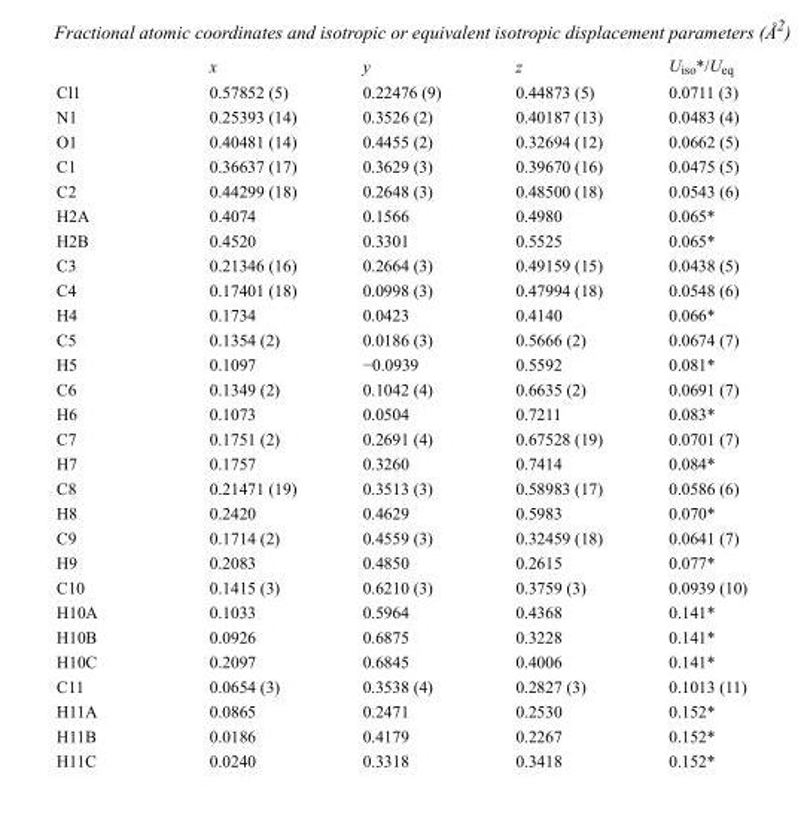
<table><thead><tr><td></td><td>x</td><td>y</td><td>z</td><td>U<sub>iso</sub>*/U<sub>eq</sub></td></tr></thead><tbody><tr><td>Cl1</td><td>0.57852 (5)</td><td>0.22476 (9)</td><td>0.44873 (5)</td><td>0.0711 (3)</td></tr><tr><td>N1</td><td>0.25393 (14)</td><td>0.3526 (2)</td><td>0.40187 (13)</td><td>0.0483 (4)</td></tr><tr><td>O1</td><td>0.40481 (14)</td><td>0.4455 (2)</td><td>0.32694 (12)</td><td>0.0662 (5)</td></tr><tr><td>C1</td><td>0.36637 (17)</td><td>0.3629 (3)</td><td>0.39670 (16)</td><td>0.0475 (5)</td></tr><tr><td>C2</td><td>0.44299 (18)</td><td>0.2648 (3)</td><td>0.48500 (18)</td><td>0.0543 (6)</td></tr><tr><td>H2A</td><td>0.4074</td><td>0.1566</td><td>0.4980</td><td>0.065*</td></tr><tr><td>H2B</td><td>0.4520</td><td>0.3301</td><td>0.5525</td><td>0.065*</td></tr><tr><td>C3</td><td>0.21346 (16)</td><td>0.2664 (3)</td><td>0.49159 (15)</td><td>0.0438 (5)</td></tr><tr><td>C4</td><td>0.17401 (18)</td><td>0.0998 (3)</td><td>0.47994 (18)</td><td>0.0548 (6)</td></tr><tr><td>H4</td><td>0.1734</td><td>0.0423</td><td>0.4140</td><td>0.066*</td></tr><tr><td>C5</td><td>0.1354 (2)</td><td>0.0186 (3)</td><td>0.5666 (2)</td><td>0.0674 (7)</td></tr><tr><td>H5</td><td>0.1097</td><td>−0.0939</td><td>0.5592</td><td>0.081*</td></tr><tr><td>C6</td><td>0.1349 (2)</td><td>0.1042 (4)</td><td>0.6635 (2)</td><td>0.0691 (7)</td></tr><tr><td>H6</td><td>0.1073</td><td>0.0504</td><td>0.7211</td><td>0.083*</td></tr><tr><td>C7</td><td>0.1751 (2)</td><td>0.2691 (4)</td><td>0.67528 (19)</td><td>0.0701 (7)</td></tr><tr><td>H7</td><td>0.1757</td><td>0.3260</td><td>0.7414</td><td>0.084*</td></tr><tr><td>C8</td><td>0.21471 (19)</td><td>0.3513 (3)</td><td>0.58983 (17)</td><td>0.0586 (6)</td></tr><tr><td>H8</td><td>0.2420</td><td>0.4629</td><td>0.5983</td><td>0.070*</td></tr><tr><td>C9</td><td>0.1714 (2)</td><td>0.4559 (3)</td><td>0.32459 (18)</td><td>0.0641 (7)</td></tr><tr><td>H9</td><td>0.2083</td><td>0.4850</td><td>0.2615</td><td>0.077*</td></tr><tr><td>C10</td><td>0.1415 (3)</td><td>0.6210 (3)</td><td>0.3759 (3)</td><td>0.0939 (10)</td></tr><tr><td>H10A</td><td>0.1033</td><td>0.5964</td><td>0.4368</td><td>0.141*</td></tr><tr><td>H10B</td><td>0.0926</td><td>0.6875</td><td>0.3228</td><td>0.141*</td></tr><tr><td>H10C</td><td>0.2097</td><td>0.6845</td><td>0.4006</td><td>0.141*</td></tr><tr><td>C11</td><td>0.0654 (3)</td><td>0.3538 (4)</td><td>0.2827 (3)</td><td>0.1013 (11)</td></tr><tr><td>H11A</td><td>0.0865</td><td>0.2471</td><td>0.2530</td><td>0.152*</td></tr><tr><td>H11B</td><td>0.0186</td><td>0.4179</td><td>0.2267</td><td>0.152*</td></tr><tr><td>H11C</td><td>0.0240</td><td>0.3318</td><td>0.3418</td><td>0.152*</td></tr></tbody></table>